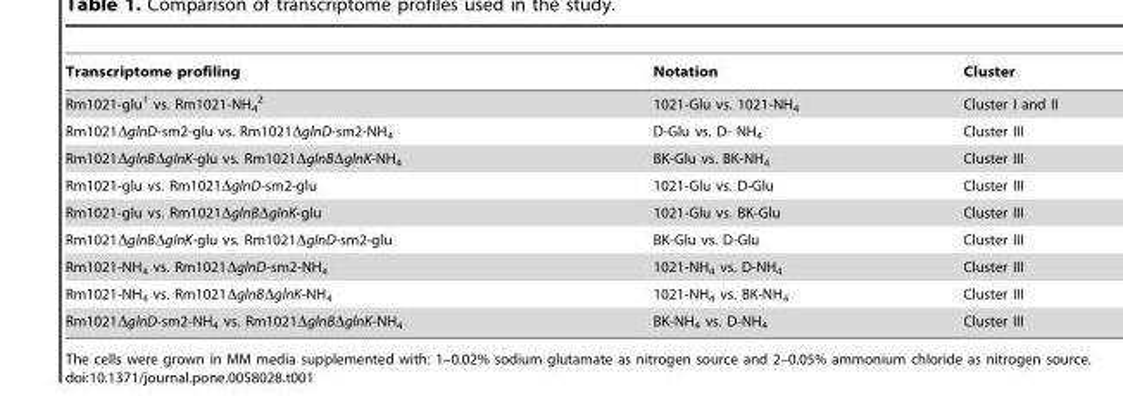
<table><thead><tr><td>Transcriptome profiling</td><td>Notation</td><td>Cluster</td></tr></thead><tbody><tr><td>Rm1021-glu<sup>1</sup> vs. Rm1021-NH<sub>4</sub> <sup>2</sup></td><td>1021-Glu vs. 1021-NH<sub>4</sub></td><td>Cluster I and II</td></tr><tr><td>Rm1021ΔglnD-sm2-glu vs. Rm1021ΔglnD-sm2-NH<sub>4</sub></td><td>D-Glu vs. D- NH<sub>4</sub></td><td>Cluster III</td></tr><tr><td>Rm1021ΔglnBΔglnK-glu vs. Rm1021ΔglnBΔglnK-NH<sub>4</sub></td><td>BK-Glu vs. BK-NH<sub>4</sub></td><td>Cluster III</td></tr><tr><td>Rm1021-glu vs. Rm1021ΔglnD-sm2-glu</td><td>1021-Glu vs. D-Glu</td><td>Cluster III</td></tr><tr><td>Rm1021-glu vs. Rm1021ΔglnBΔglnK-glu</td><td>1021-Glu vs. BK-Glu</td><td>Cluster III</td></tr><tr><td>Rm1021ΔglnBΔglnK-glu vs. Rm1021ΔglnD-sm2-glu</td><td>BK-Glu vs. D-Glu</td><td>Cluster III</td></tr><tr><td>Rm1021-NH<sub>4</sub> vs. Rm1021ΔglnD-sm2-NH<sub>4</sub></td><td>1021-NH<sub>4</sub> vs. D-NH<sub>4</sub></td><td>Cluster III</td></tr><tr><td>Rm1021-NH<sub>4</sub> vs. Rm1021ΔglnBΔglnK-NH<sub>4</sub></td><td>1021-NH<sub>4</sub> vs. BK-NH<sub>4</sub></td><td>Cluster III</td></tr><tr><td>Rm1021ΔglnD-sm2-NH<sub>4</sub> vs. Rm1021ΔglnBΔglnK-NH<sub>4</sub></td><td>BK-NH<sub>4</sub> vs. D-NH<sub>4</sub></td><td>Cluster III</td></tr></tbody></table>